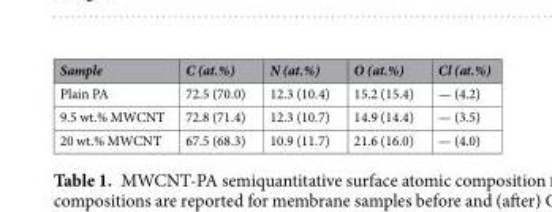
<table><thead><tr><td>Sample</td><td>C (at.%)</td><td>N (at.%)</td><td>O (at.%)</td><td>Cl (at.%)</td></tr></thead><tbody><tr><td>Plain PA</td><td>72.5 (70.0)</td><td>12.3 (10.4)</td><td>15.2 (15.4)</td><td>— (4.2)</td></tr><tr><td>9.5 wt.% MWCNT</td><td>72.8 (71.4)</td><td>12.3 (10.7)</td><td>14.9 (14.4)</td><td>— (3.5)</td></tr><tr><td>20 wt.% MWCNT</td><td>67.5 (68.3)</td><td>10.9 (11.7)</td><td>21.6 (16.0)</td><td>— (4.0)</td></tr></tbody></table>